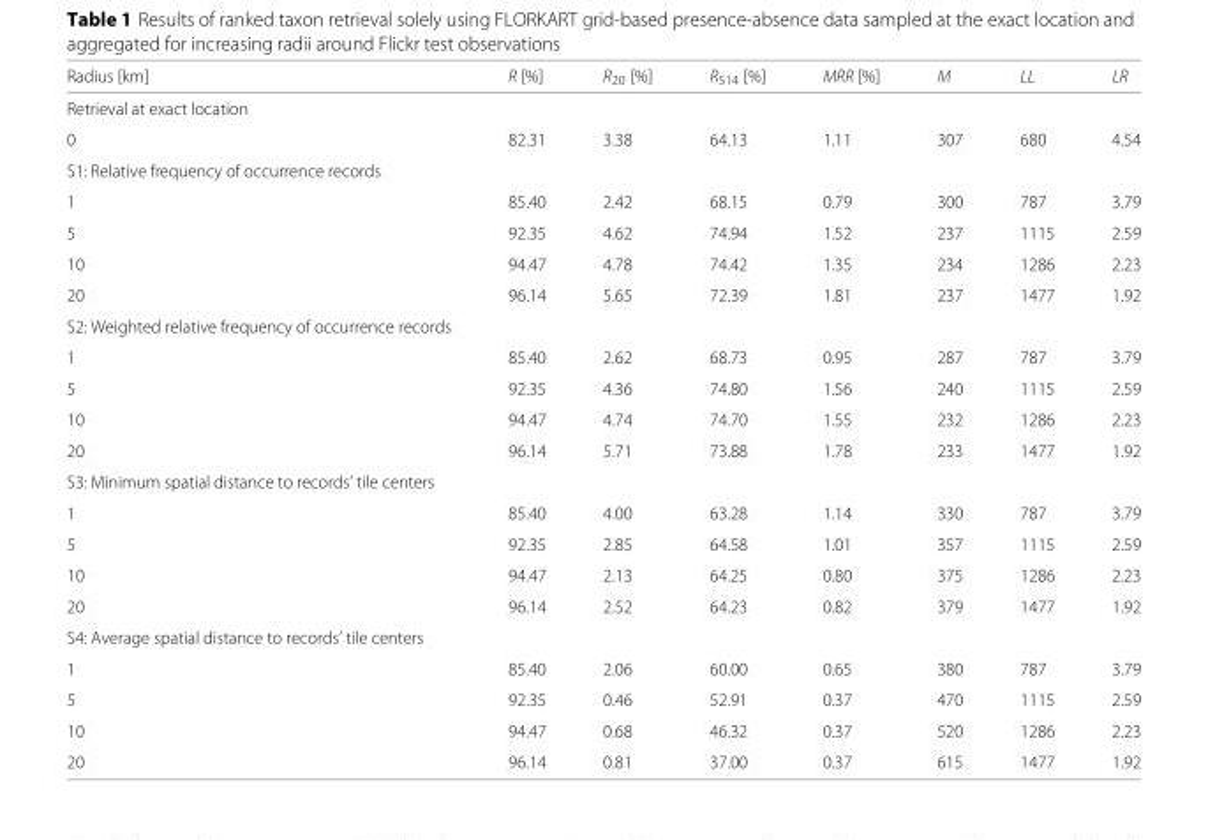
<table><thead><tr><td>Radius [km]</td><td>R [%]</td><td>R<sub>20</sub> [%]</td><td>R<sub>514</sub> [%]</td><td>MRR [%]</td><td>M</td><td>LL</td><td>LR</td></tr></thead><tbody><tr><td colspan="8">Retrieval at exact location</td></tr><tr><td>0</td><td>82.31</td><td>3.38</td><td>64.13</td><td>1.11</td><td>307</td><td>680</td><td>4.54</td></tr><tr><td colspan="8">S1: Relative frequency of occurrence records</td></tr><tr><td>1</td><td>85.40</td><td>2.42</td><td>68.15</td><td>0.79</td><td>300</td><td>787</td><td>3.79</td></tr><tr><td>5</td><td>92.35</td><td>4.62</td><td>74.94</td><td>1.52</td><td>237</td><td>1115</td><td>2.59</td></tr><tr><td>10</td><td>94.47</td><td>4.78</td><td>74.42</td><td>1.35</td><td>234</td><td>1286</td><td>2.23</td></tr><tr><td>20</td><td>96.14</td><td>5.65</td><td>72.39</td><td>1.81</td><td>237</td><td>1477</td><td>1.92</td></tr><tr><td colspan="8">S2: Weighted relative frequency of occurrence records</td></tr><tr><td>1</td><td>85.40</td><td>2.62</td><td>68.73</td><td>0.95</td><td>287</td><td>787</td><td>3.79</td></tr><tr><td>5</td><td>92.35</td><td>4.36</td><td>74.80</td><td>1.56</td><td>240</td><td>1115</td><td>2.59</td></tr><tr><td>10</td><td>94.47</td><td>4.74</td><td>74.70</td><td>1.55</td><td>232</td><td>1286</td><td>2.23</td></tr><tr><td>20</td><td>96.14</td><td>5.71</td><td>73.88</td><td>1.78</td><td>233</td><td>1477</td><td>1.92</td></tr><tr><td colspan="8">S3: Minimum spatial distance to records’ tile centers</td></tr><tr><td>1</td><td>85.40</td><td>4.00</td><td>63.28</td><td>1.14</td><td>330</td><td>787</td><td>3.79</td></tr><tr><td>5</td><td>92.35</td><td>2.85</td><td>64.58</td><td>1.01</td><td>357</td><td>1115</td><td>2.59</td></tr><tr><td>10</td><td>94.47</td><td>2.13</td><td>64.25</td><td>0.80</td><td>375</td><td>1286</td><td>2.23</td></tr><tr><td>20</td><td>96.14</td><td>2.52</td><td>64.23</td><td>0.82</td><td>379</td><td>1477</td><td>1.92</td></tr><tr><td colspan="8">S4: Average spatial distance to records’ tile centers</td></tr><tr><td>1</td><td>85.40</td><td>2.06</td><td>60.00</td><td>0.65</td><td>380</td><td>787</td><td>3.79</td></tr><tr><td>5</td><td>92.35</td><td>0.46</td><td>52.91</td><td>0.37</td><td>470</td><td>1115</td><td>2.59</td></tr><tr><td>10</td><td>94.47</td><td>0.68</td><td>46.32</td><td>0.37</td><td>520</td><td>1286</td><td>2.23</td></tr><tr><td>20</td><td>96.14</td><td>0.81</td><td>37.00</td><td>0.37</td><td>615</td><td>1477</td><td>1.92</td></tr></tbody></table>